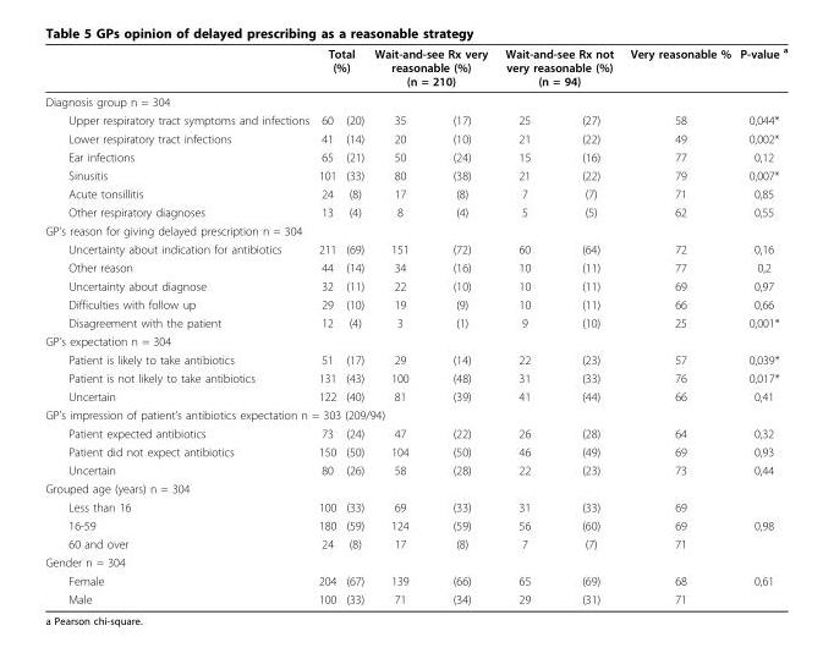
<table><thead><tr><td></td><td colspan="2">Total (%)</td><td colspan="2">Wait-and-see Rx very reasonable (%) (n = 210)</td><td colspan="2">Wait-and-see Rx not very reasonable (%) (n = 94)</td><td>Very reasonable %</td><td>P-value <sup>a</sup></td></tr><tr><td colspan="9">Diagnosis group n = 304</td></tr><tr><td>Upper respiratory tract symptoms and infections</td><td>60</td><td>(20)</td><td>35</td><td>(17)</td><td>25</td><td>(27)</td><td>58</td><td>0,044*</td></tr></thead><tbody><tr><td>Lower respiratory tract infections</td><td>41</td><td>(14)</td><td>20</td><td>(10)</td><td>21</td><td>(22)</td><td>49</td><td>0,002*</td></tr><tr><td>Ear infections</td><td>65</td><td>(21)</td><td>50</td><td>(24)</td><td>15</td><td>(16)</td><td>77</td><td>0,12</td></tr><tr><td>Sinusitis</td><td>101</td><td>(33)</td><td>80</td><td>(38)</td><td>21</td><td>(22)</td><td>79</td><td>0,007*</td></tr><tr><td>Acute tonsillitis</td><td>24</td><td>(8)</td><td>17</td><td>(8)</td><td>7</td><td>(7)</td><td>71</td><td>0,85</td></tr><tr><td>Other respiratory diagnoses</td><td>13</td><td>(4)</td><td>8</td><td>(4)</td><td>5</td><td>(5)</td><td>62</td><td>0,55</td></tr><tr><td colspan="9">GP’s reason for giving delayed prescription n = 304</td></tr><tr><td>Uncertainty about indication for antibiotics</td><td>211</td><td>(69)</td><td>151</td><td>(72)</td><td>60</td><td>(64)</td><td>72</td><td>0,16</td></tr><tr><td>Other reason</td><td>44</td><td>(14)</td><td>34</td><td>(16)</td><td>10</td><td>(11)</td><td>77</td><td>0,2</td></tr><tr><td>Uncertainty about diagnose</td><td>32</td><td>(11)</td><td>22</td><td>(10)</td><td>10</td><td>(11)</td><td>69</td><td>0,97</td></tr><tr><td>Difficulties with follow up</td><td>29</td><td>(10)</td><td>19</td><td>(9)</td><td>10</td><td>(11)</td><td>66</td><td>0,66</td></tr><tr><td>Disagreement with the patient</td><td>12</td><td>(4)</td><td>3</td><td>(1)</td><td>9</td><td>(10)</td><td>25</td><td>0,001*</td></tr><tr><td colspan="9">GP’s expectation n = 304</td></tr><tr><td>Patient is likely to take antibiotics</td><td>51</td><td>(17)</td><td>29</td><td>(14)</td><td>22</td><td>(23)</td><td>57</td><td>0,039*</td></tr><tr><td>Patient is not likely to take antibiotics</td><td>131</td><td>(43)</td><td>100</td><td>(48)</td><td>31</td><td>(33)</td><td>76</td><td>0,017*</td></tr><tr><td>Uncertain</td><td>122</td><td>(40)</td><td>81</td><td>(39)</td><td>41</td><td>(44)</td><td>66</td><td>0,41</td></tr><tr><td colspan="9">GP’s impression of patient’s antibiotics expectation n = 303 (209/94)</td></tr><tr><td>Patient expected antibiotics</td><td>73</td><td>(24)</td><td>47</td><td>(22)</td><td>26</td><td>(28)</td><td>64</td><td>0,32</td></tr><tr><td>Patient did not expect antibiotics</td><td>150</td><td>(50)</td><td>104</td><td>(50)</td><td>46</td><td>(49)</td><td>69</td><td>0,93</td></tr><tr><td>Uncertain</td><td>80</td><td>(26)</td><td>58</td><td>(28)</td><td>22</td><td>(23)</td><td>73</td><td>0,44</td></tr><tr><td colspan="9">Grouped age (years) n = 304</td></tr><tr><td>Less than 16</td><td>100</td><td>(33)</td><td>69</td><td>(33)</td><td>31</td><td>(33)</td><td>69</td><td></td></tr><tr><td>16-59</td><td>180</td><td>(59)</td><td>124</td><td>(59)</td><td>56</td><td>(60)</td><td>69</td><td>0,98</td></tr><tr><td>60 and over</td><td>24</td><td>(8)</td><td>17</td><td>(8)</td><td>7</td><td>(7)</td><td>71</td><td></td></tr><tr><td colspan="9">Gender n = 304</td></tr><tr><td>Female</td><td>204</td><td>(67)</td><td>139</td><td>(66)</td><td>65</td><td>(69)</td><td>68</td><td>0,61</td></tr><tr><td>Male</td><td>100</td><td>(33)</td><td>71</td><td>(34)</td><td>29</td><td>(31)</td><td>71</td><td></td></tr></tbody></table>